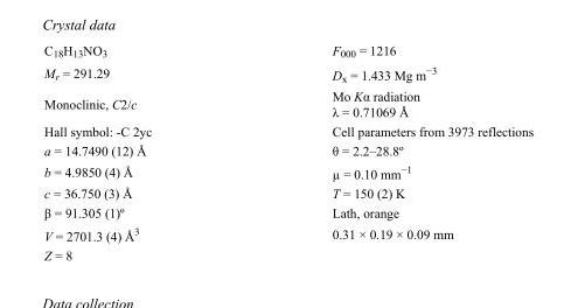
<table><tbody><tr><td>C<sub>18</sub>H<sub>13</sub>NO<sub>3</sub></td><td>F<sub>000</sub> = 1216</td></tr><tr><td>M<sub>r</sub> = 291.29</td><td>D<sub>x</sub> = 1.433 Mg m<sup>−3</sup></td></tr><tr><td>Monoclinic, C2/c</td><td>Mo Kα radiation λ = 0.71069 Å</td></tr><tr><td>Hall symbol: -C 2yc</td><td>Cell parameters from 3973 reflections</td></tr><tr><td>a = 14.7490 (12) Å</td><td>θ = 2.2–28.8º</td></tr><tr><td>b = 4.9850 (4) Å</td><td>µ = 0.10 mm<sup>−1</sup></td></tr><tr><td>c = 36.750 (3) Å</td><td>T = 150 (2) K</td></tr><tr><td>β = 91.305 (1)º</td><td>Lath, orange</td></tr><tr><td>V = 2701.3 (4) Å<sup>3</sup></td><td>0.31 × 0.19 × 0.09 mm</td></tr><tr><td>Z = 8</td><td></td></tr></tbody></table>